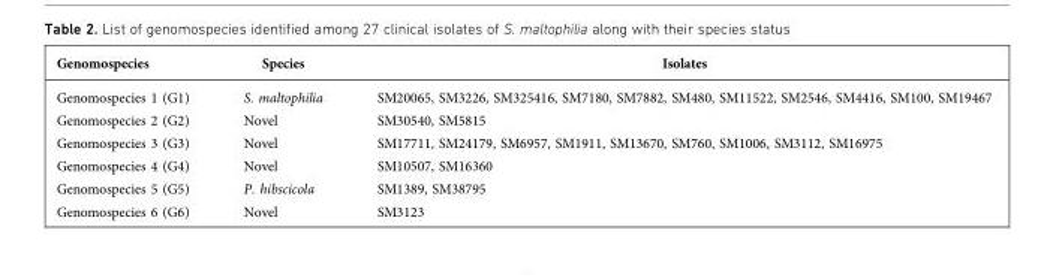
<table><thead><tr><td>Genomospecies</td><td>Species</td><td>Isolates</td></tr></thead><tbody><tr><td>Genomospecies 1 (G1)</td><td>S. maltophilia</td><td>SM20065, SM3226, SM325416, SM7180, SM7882, SM480, SM11522, SM2546, SM4416, SM100, SM19467</td></tr><tr><td>Genomospecies 2 (G2)</td><td>Novel</td><td>SM30540, SM5815</td></tr><tr><td>Genomospecies 3 (G3)</td><td>Novel</td><td>SM17711, SM24179, SM6957, SM1911, SM13670, SM760, SM1006, SM3112, SM16975</td></tr><tr><td>Genomospecies 4 (G4)</td><td>Novel</td><td>SM10507, SM16360</td></tr><tr><td>Genomospecies 5 (G5)</td><td>P. hibscicola</td><td>SM1389, SM38795</td></tr><tr><td>Genomospecies 6 (G6)</td><td>Novel</td><td>SM3123</td></tr></tbody></table>